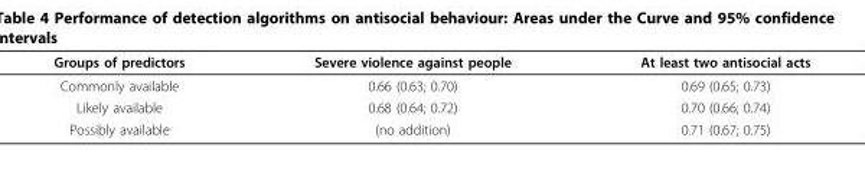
<table><thead><tr><td>Groups of predictors</td><td>Severe violence against people</td><td>At least two antisocial acts</td></tr></thead><tbody><tr><td>Commonly available</td><td>0.66 (0.63; 0.70)</td><td>0.69 (0.65; 0.73)</td></tr><tr><td>Likely available</td><td>0.68 (0.64; 0.72)</td><td>0.70 (0.66; 0.74)</td></tr><tr><td>Possibly available</td><td>(no addition)</td><td>0.71 (0.67; 0.75)</td></tr></tbody></table>